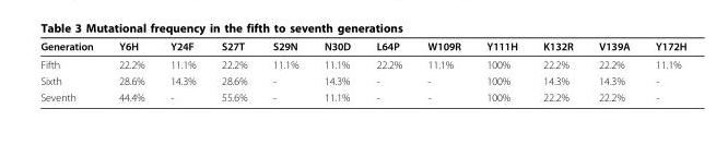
<table><thead><tr><td>Generation</td><td>Y6H</td><td>Y24F</td><td>S27T</td><td>S29N</td><td>N30D</td><td>L64P</td><td>W109R</td><td>Y111H</td><td>K132R</td><td>V139A</td><td>Y172H</td></tr></thead><tbody><tr><td>Fifth</td><td>22.2%</td><td>11.1%</td><td>22.2%</td><td>11.1%</td><td>11.1%</td><td>22.2%</td><td>11.1%</td><td>100%</td><td>22.2%</td><td>22.2%</td><td>11.1%</td></tr><tr><td>Sixth</td><td>28.6%</td><td>14.3%</td><td>28.6%</td><td>-</td><td>14.3%</td><td>-</td><td>-</td><td>100%</td><td>14.3%</td><td>14.3%</td><td>-</td></tr><tr><td>Seventh</td><td>44.4%</td><td>-</td><td>55.6%</td><td>-</td><td>11.1%</td><td>-</td><td>-</td><td>100%</td><td>22.2%</td><td>22.2%</td><td>-</td></tr></tbody></table>